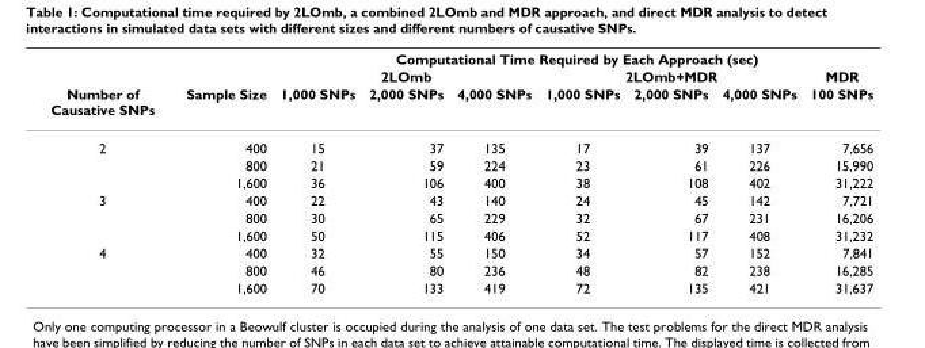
<table><thead><tr><td rowspan="3">Number of Causative SNPs</td><td rowspan="3">Sample Size</td><td colspan="7">Computational Time Required by Each Approach (sec)</td></tr><tr><td colspan="3">2LOmb</td><td colspan="3">2LOmb+MDR</td><td rowspan="2">MDR 100 SNPs</td></tr><tr><td>1,000 SNPs</td><td>2,000 SNPs</td><td>4,000 SNPs</td><td>1,000 SNPs</td><td>2,000 SNPs</td><td>4,000 SNPs</td></tr></thead><tbody><tr><td rowspan="3">2</td><td>400</td><td>15</td><td>37</td><td>135</td><td>17</td><td>39</td><td>137</td><td>7,656</td></tr><tr><td>800</td><td>21</td><td>59</td><td>224</td><td>23</td><td>61</td><td>226</td><td>15,990</td></tr><tr><td>1,600</td><td>36</td><td>106</td><td>400</td><td>38</td><td>108</td><td>402</td><td>31,222</td></tr><tr><td rowspan="3">3</td><td>400</td><td>22</td><td>43</td><td>140</td><td>24</td><td>45</td><td>142</td><td>7,721</td></tr><tr><td>800</td><td>30</td><td>65</td><td>229</td><td>32</td><td>67</td><td>231</td><td>16,206</td></tr><tr><td>1,600</td><td>50</td><td>115</td><td>406</td><td>52</td><td>117</td><td>408</td><td>31,232</td></tr><tr><td rowspan="3">4</td><td>400</td><td>32</td><td>55</td><td>150</td><td>34</td><td>57</td><td>152</td><td>7,841</td></tr><tr><td>800</td><td>46</td><td>80</td><td>236</td><td>48</td><td>82</td><td>238</td><td>16,285</td></tr><tr><td>1,600</td><td>70</td><td>133</td><td>419</td><td>72</td><td>135</td><td>421</td><td>31,637</td></tr></tbody></table>